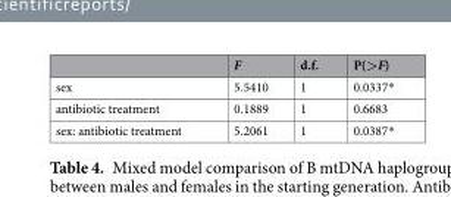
<table><thead><tr><td></td><td>F</td><td>d.f.</td><td>P(&gt;F)</td></tr></thead><tbody><tr><td>sex</td><td>5.5410</td><td>1</td><td>0.0337*</td></tr><tr><td>antibiotic treatment</td><td>0.1889</td><td>1</td><td>0.6683</td></tr><tr><td>sex: antibiotic treatment</td><td>5.2061</td><td>1</td><td>0.0387*</td></tr></tbody></table>